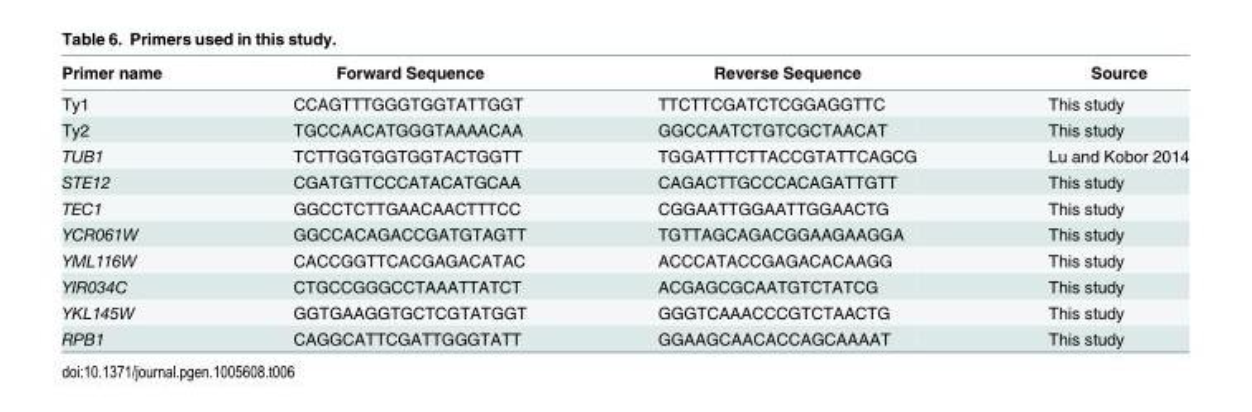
<table><thead><tr><td>Primer name</td><td>Forward Sequence</td><td>Reverse Sequence</td><td>Source</td></tr></thead><tbody><tr><td>Ty1</td><td>CCAGTTTGGGTGGTATTGGT</td><td>TTCTTCGATCTCGGAGGTTC</td><td>This study</td></tr><tr><td>Ty2</td><td>TGCCAACATGGGTAAAACAA</td><td>GGCCAATCTGTCGCTAACAT</td><td>This study</td></tr><tr><td>TUB1</td><td>TCTTGGTGGTGGTACTGGTT</td><td>TGGATTTCTTACCGTATTCAGCG</td><td>Lu and Kobor 2014</td></tr><tr><td>STE12</td><td>CGATGTTCCCATACATGCAA</td><td>CAGACTTGCCCACAGATTGTT</td><td>This study</td></tr><tr><td>TEC1</td><td>GGCCTCTTGAACAACTTTCC</td><td>CGGAATTGGAATTGGAACTG</td><td>This study</td></tr><tr><td>YCR061W</td><td>GGCCACAGACCGATGTAGTT</td><td>TGTTAGCAGACGGAAGAAGGA</td><td>This study</td></tr><tr><td>YML116W</td><td>CACCGGTTCACGAGACATAC</td><td>ACCCATACCGAGACACAAGG</td><td>This study</td></tr><tr><td>YIR034C</td><td>CTGCCGGGCCTAAATTATCT</td><td>ACGAGCGCAATGTCTATCG</td><td>This study</td></tr><tr><td>YKL145W</td><td>GGTGAAGGTGCTCGTATGGT</td><td>GGGTCAAACCCGTCTAACTG</td><td>This study</td></tr><tr><td>RPB1</td><td>CAGGCATTCGATTGGGTATT</td><td>GGAAGCAACACCAGCAAAAT</td><td>This study</td></tr></tbody></table>